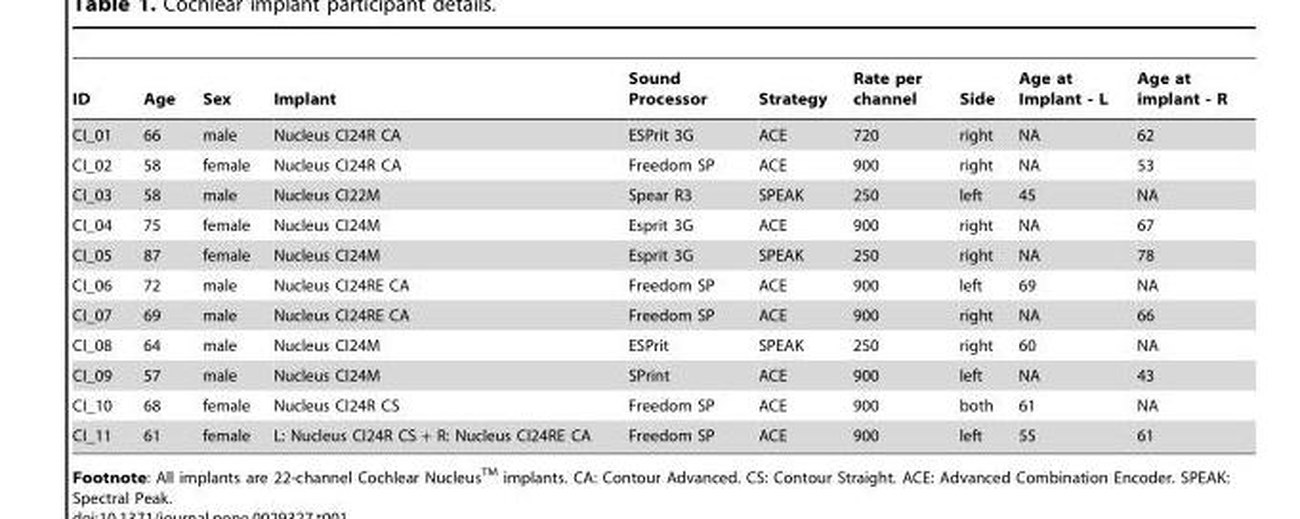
<table><thead><tr><td>ID</td><td>Age</td><td>Sex</td><td>Implant</td><td>Sound Processor</td><td>Strategy</td><td>Rate per channel</td><td>Side</td><td>Age at Implant - L</td><td>Age at implant - R</td></tr></thead><tbody><tr><td>CI_01</td><td>66</td><td>male</td><td>Nucleus CI24R CA</td><td>ESPrit 3G</td><td>ACE</td><td>720</td><td>right</td><td>NA</td><td>62</td></tr><tr><td>CI_02</td><td>58</td><td>female</td><td>Nucleus CI24R CA</td><td>Freedom SP</td><td>ACE</td><td>900</td><td>right</td><td>NA</td><td>53</td></tr><tr><td>CI_03</td><td>58</td><td>male</td><td>Nucleus CI22M</td><td>Spear R3</td><td>SPEAK</td><td>250</td><td>left</td><td>45</td><td>NA</td></tr><tr><td>CI_04</td><td>75</td><td>female</td><td>Nucleus CI24M</td><td>Esprit 3G</td><td>ACE</td><td>900</td><td>right</td><td>NA</td><td>67</td></tr><tr><td>CI_05</td><td>87</td><td>female</td><td>Nucleus CI24M</td><td>Esprit 3G</td><td>SPEAK</td><td>250</td><td>right</td><td>NA</td><td>78</td></tr><tr><td>CI_06</td><td>72</td><td>male</td><td>Nucleus CI24RE CA</td><td>Freedom SP</td><td>ACE</td><td>900</td><td>left</td><td>69</td><td>NA</td></tr><tr><td>CI_07</td><td>69</td><td>male</td><td>Nucleus CI24RE CA</td><td>Freedom SP</td><td>ACE</td><td>900</td><td>right</td><td>NA</td><td>66</td></tr><tr><td>CI_08</td><td>64</td><td>male</td><td>Nucleus CI24M</td><td>ESPrit</td><td>SPEAK</td><td>250</td><td>right</td><td>60</td><td>NA</td></tr><tr><td>CI_09</td><td>57</td><td>male</td><td>Nucleus CI24M</td><td>SPrint</td><td>ACE</td><td>900</td><td>left</td><td>NA</td><td>43</td></tr><tr><td>CI_10</td><td>68</td><td>female</td><td>Nucleus CI24R CS</td><td>Freedom SP</td><td>ACE</td><td>900</td><td>both</td><td>61</td><td>NA</td></tr><tr><td>CI_11</td><td>61</td><td>female</td><td>L: Nucleus CI24R CS + R: Nucleus CI24RE CA</td><td>Freedom SP</td><td>ACE</td><td>900</td><td>left</td><td>55</td><td>61</td></tr></tbody></table>